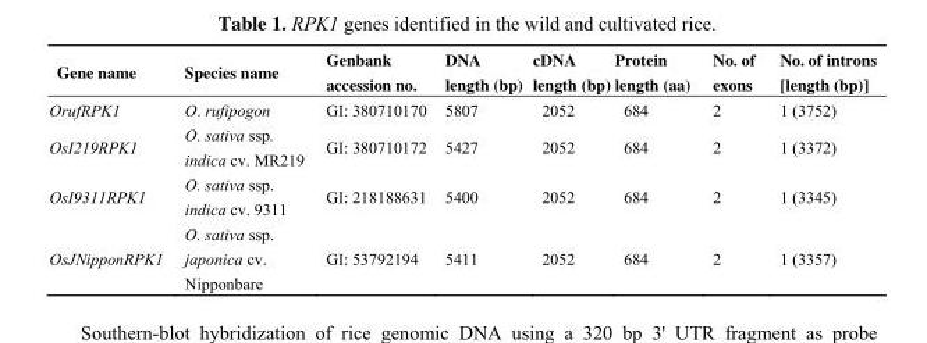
<table><thead><tr><td>Gene name</td><td>Species name</td><td>Genbank accession no.</td><td>DNA length (bp)</td><td>cDNA length (bp)</td><td>Protein length (aa)</td><td>No. of exons</td><td>No. of introns [length (bp)]</td></tr></thead><tbody><tr><td>OrufRPK1</td><td>O. rufipogon</td><td>GI: 380710170</td><td>5807</td><td>2052</td><td>684</td><td>2</td><td>1 (3752)</td></tr><tr><td>OsI219RPK1</td><td>O. sativa ssp. indica cv. MR219</td><td>GI: 380710172</td><td>5427</td><td>2052</td><td>684</td><td>2</td><td>1 (3372)</td></tr><tr><td>OsI9311RPK1</td><td>O. sativa ssp. indica cv. 9311</td><td>GI: 218188631</td><td>5400</td><td>2052</td><td>684</td><td>2</td><td>1 (3345)</td></tr><tr><td>OsJNipponRPK1</td><td>O. sativa ssp. japonica cv. Nipponbare</td><td>GI: 53792194</td><td>5411</td><td>2052</td><td>684</td><td>2</td><td>1 (3357)</td></tr></tbody></table>